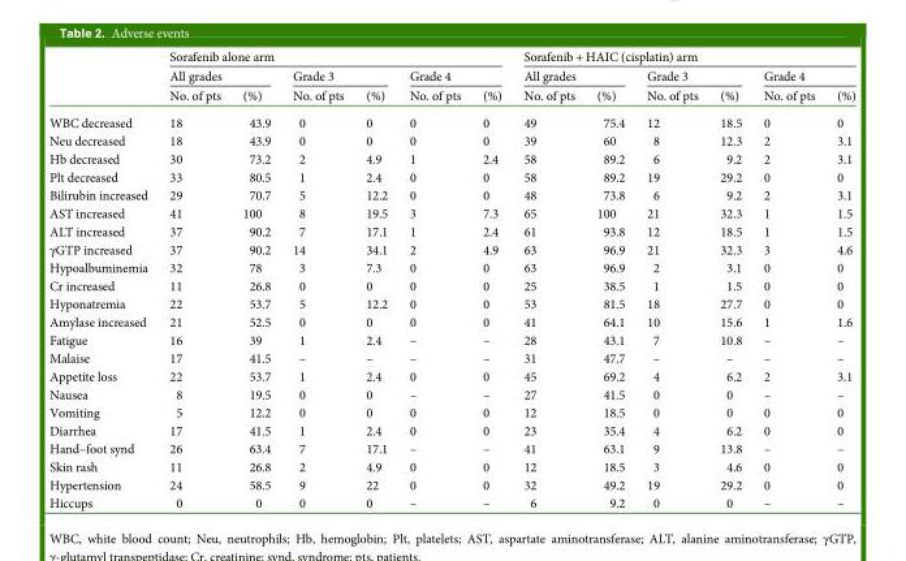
<table><thead><tr><td rowspan="3"></td><td colspan="6">Sorafenib alone arm</td><td colspan="6">Sorafenib + HAIC (cisplatin) arm</td></tr><tr><td colspan="2">All grades</td><td colspan="2">Grade 3</td><td colspan="2">Grade 4</td><td colspan="2">All grades</td><td colspan="2">Grade 3</td><td colspan="2">Grade 4</td></tr><tr><td>No. of pts</td><td>(%)</td><td>No. of pts</td><td>(%)</td><td>No. of pts</td><td>(%)</td><td>No. of pts</td><td>(%)</td><td>No. of pts</td><td>(%)</td><td>No. of pts</td><td>(%)</td></tr></thead><tbody><tr><td>WBC decreased</td><td>18</td><td>43.9</td><td>0</td><td>0</td><td>0</td><td>0</td><td>49</td><td>75.4</td><td>12</td><td>18.5</td><td>0</td><td>0</td></tr><tr><td>Neu decreased</td><td>18</td><td>43.9</td><td>0</td><td>0</td><td>0</td><td>0</td><td>39</td><td>60</td><td>8</td><td>12.3</td><td>2</td><td>3.1</td></tr><tr><td>Hb decreased</td><td>30</td><td>73.2</td><td>2</td><td>4.9</td><td>1</td><td>2.4</td><td>58</td><td>89.2</td><td>6</td><td>9.2</td><td>2</td><td>3.1</td></tr><tr><td>Plt decreased</td><td>33</td><td>80.5</td><td>1</td><td>2.4</td><td>0</td><td>0</td><td>58</td><td>89.2</td><td>19</td><td>29.2</td><td>0</td><td>0</td></tr><tr><td>Bilirubin increased</td><td>29</td><td>70.7</td><td>5</td><td>12.2</td><td>0</td><td>0</td><td>48</td><td>73.8</td><td>6</td><td>9.2</td><td>2</td><td>3.1</td></tr><tr><td>AST increased</td><td>41</td><td>100</td><td>8</td><td>19.5</td><td>3</td><td>7.3</td><td>65</td><td>100</td><td>21</td><td>32.3</td><td>1</td><td>1.5</td></tr><tr><td>ALT increased</td><td>37</td><td>90.2</td><td>7</td><td>17.1</td><td>1</td><td>2.4</td><td>61</td><td>93.8</td><td>12</td><td>18.5</td><td>1</td><td>1.5</td></tr><tr><td>γGTP increased</td><td>37</td><td>90.2</td><td>14</td><td>34.1</td><td>2</td><td>4.9</td><td>63</td><td>96.9</td><td>21</td><td>32.3</td><td>3</td><td>4.6</td></tr><tr><td>Hypoalbuminemia</td><td>32</td><td>78</td><td>3</td><td>7.3</td><td>0</td><td>0</td><td>63</td><td>96.9</td><td>2</td><td>3.1</td><td>0</td><td>0</td></tr><tr><td>Cr increased</td><td>11</td><td>26.8</td><td>0</td><td>0</td><td>0</td><td>0</td><td>25</td><td>38.5</td><td>1</td><td>1.5</td><td>0</td><td>0</td></tr><tr><td>Hyponatremia</td><td>22</td><td>53.7</td><td>5</td><td>12.2</td><td>0</td><td>0</td><td>53</td><td>81.5</td><td>18</td><td>27.7</td><td>0</td><td>0</td></tr><tr><td>Amylase increased</td><td>21</td><td>52.5</td><td>0</td><td>0</td><td>0</td><td>0</td><td>41</td><td>64.1</td><td>10</td><td>15.6</td><td>1</td><td>1.6</td></tr><tr><td>Fatigue</td><td>16</td><td>39</td><td>1</td><td>2.4</td><td>–</td><td>–</td><td>28</td><td>43.1</td><td>7</td><td>10.8</td><td>–</td><td>–</td></tr><tr><td>Malaise</td><td>17</td><td>41.5</td><td>–</td><td>–</td><td>–</td><td>–</td><td>31</td><td>47.7</td><td>–</td><td>–</td><td>–</td><td>–</td></tr><tr><td>Appetite loss</td><td>22</td><td>53.7</td><td>1</td><td>2.4</td><td>0</td><td>0</td><td>45</td><td>69.2</td><td>4</td><td>6.2</td><td>2</td><td>3.1</td></tr><tr><td>Nausea</td><td>8</td><td>19.5</td><td>0</td><td>0</td><td>–</td><td>–</td><td>27</td><td>41.5</td><td>0</td><td>0</td><td>–</td><td>–</td></tr><tr><td>Vomiting</td><td>5</td><td>12.2</td><td>0</td><td>0</td><td>0</td><td>0</td><td>12</td><td>18.5</td><td>0</td><td>0</td><td>0</td><td>0</td></tr><tr><td>Diarrhea</td><td>17</td><td>41.5</td><td>1</td><td>2.4</td><td>0</td><td>0</td><td>23</td><td>35.4</td><td>4</td><td>6.2</td><td>0</td><td>0</td></tr><tr><td>Hand–foot synd</td><td>26</td><td>63.4</td><td>7</td><td>17.1</td><td>–</td><td>–</td><td>41</td><td>63.1</td><td>9</td><td>13.8</td><td>–</td><td>–</td></tr><tr><td>Skin rash</td><td>11</td><td>26.8</td><td>2</td><td>4.9</td><td>0</td><td>0</td><td>12</td><td>18.5</td><td>3</td><td>4.6</td><td>0</td><td>0</td></tr><tr><td>Hypertension</td><td>24</td><td>58.5</td><td>9</td><td>22</td><td>0</td><td>0</td><td>32</td><td>49.2</td><td>19</td><td>29.2</td><td>0</td><td>0</td></tr><tr><td>Hiccups</td><td>0</td><td>0</td><td>0</td><td>0</td><td>–</td><td>–</td><td>6</td><td>9.2</td><td>0</td><td>0</td><td>–</td><td>–</td></tr></tbody></table>